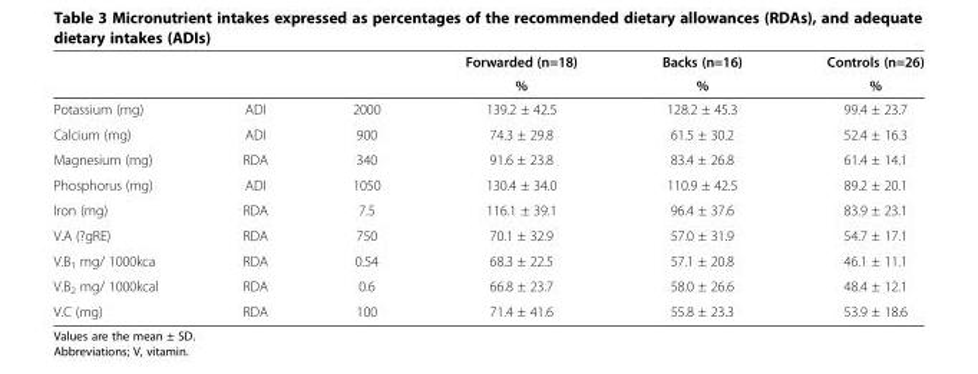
<table><thead><tr><td rowspan="2"></td><td rowspan="2"></td><td rowspan="2"></td><td rowspan="2">Forwarded (n=18) %</td><td rowspan="2">Backs (n=16) %</td><td rowspan="2">Controls (n=26) %</td></tr><tr></tr></thead><tbody><tr><td>Potassium (mg)</td><td>ADI</td><td>2000</td><td>139.2 ± 42.5</td><td>128.2 ± 45.3</td><td>99.4 ± 23.7</td></tr><tr><td>Calcium (mg)</td><td>ADI</td><td>900</td><td>74.3 ± 29.8</td><td>61.5 ± 30.2</td><td>52.4 ± 16.3</td></tr><tr><td>Magnesium (mg)</td><td>RDA</td><td>340</td><td>91.6 ± 23.8</td><td>83.4 ± 26.8</td><td>61.4 ± 14.1</td></tr><tr><td>Phosphorus (mg)</td><td>ADI</td><td>1050</td><td>130.4 ± 34.0</td><td>110.9 ± 42.5</td><td>89.2 ± 20.1</td></tr><tr><td>Iron (mg)</td><td>RDA</td><td>7.5</td><td>116.1 ± 39.1</td><td>96.4 ± 37.6</td><td>83.9 ± 23.1</td></tr><tr><td>V.A (?gRE)</td><td>RDA</td><td>750</td><td>70.1 ± 32.9</td><td>57.0 ± 31.9</td><td>54.7 ± 17.1</td></tr><tr><td>V.B<sub>1</sub> mg/ 1000kca</td><td>RDA</td><td>0.54</td><td>68.3 ± 22.5</td><td>57.1 ± 20.8</td><td>46.1 ± 11.1</td></tr><tr><td>V.B<sub>2</sub> mg/ 1000kcal</td><td>RDA</td><td>0.6</td><td>66.8 ± 23.7</td><td>58.0 ± 26.6</td><td>48.4 ± 12.1</td></tr><tr><td>V.C (mg)</td><td>RDA</td><td>100</td><td>71.4 ± 41.6</td><td>55.8 ± 23.3</td><td>53.9 ± 18.6</td></tr></tbody></table>